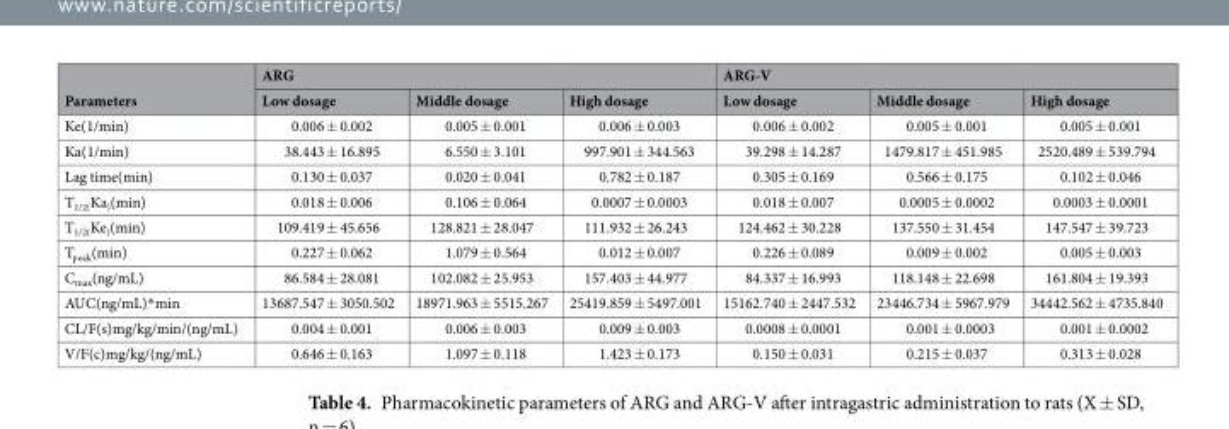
<table><thead><tr><td rowspan="2">Parameters</td><td colspan="3">ARG</td><td colspan="3">ARG-V</td></tr><tr><td>Low dosage</td><td>Middle dosage</td><td>High dosage</td><td>Low dosage</td><td>Middle dosage</td><td>High dosage</td></tr></thead><tbody><tr><td>Ke(1/min)</td><td>0.006 ± 0.002</td><td>0.005 ± 0.001</td><td>0.006 ± 0.003</td><td>0.006 ± 0.002</td><td>0.005 ± 0.001</td><td>0.005 ± 0.001</td></tr><tr><td>Ka(1/min)</td><td>38.443 ± 16.895</td><td>6.550 ± 3.101</td><td>997.901 ± 344.563</td><td>39.298 ± 14.287</td><td>1479.817 ± 451.985</td><td>2520.489 ± 539.794</td></tr><tr><td>Lag time(min)</td><td>0.130 ± 0.037</td><td>0.020 ± 0.041</td><td>0.782 ± 0.187</td><td>0.305 ± 0.169</td><td>0.566 ± 0.175</td><td>0.102 ± 0.046</td></tr><tr><td>T<sub>1/2(</sub>Ka<sub>)</sub>(min)</td><td>0.018 ± 0.006</td><td>0.106 ± 0.064</td><td>0.0007 ± 0.0003</td><td>0.018 ± 0.007</td><td>0.0005 ± 0.0002</td><td>0.0003 ± 0.0001</td></tr><tr><td>T<sub>1/2(</sub>Ke<sub>)</sub>(min)</td><td>109.419 ± 45.656</td><td>128.821 ± 28.047</td><td>111.932 ± 26.243</td><td>124.462 ± 30.228</td><td>137.550 ± 31.454</td><td>147.547 ± 39.723</td></tr><tr><td>T<sub>peak</sub>(min)</td><td>0.227 ± 0.062</td><td>1.079 ± 0.564</td><td>0.012 ± 0.007</td><td>0.226 ± 0.089</td><td>0.009 ± 0.002</td><td>0.005 ± 0.003</td></tr><tr><td>C<sub>max</sub>(ng/mL)</td><td>86.584 ± 28.081</td><td>102.082 ± 25.953</td><td>157.403 ± 44.977</td><td>84.337 ± 16.993</td><td>118.148 ± 22.698</td><td>161.804 ± 19.393</td></tr><tr><td>AUC(ng/mL)*min</td><td>13687.547 ± 3050.502</td><td>18971.963 ± 5515.267</td><td>25419.859 ± 5497.001</td><td>15162.740 ± 2447.532</td><td>23446.734 ± 5967.979</td><td>34442.562 ± 4735.840</td></tr><tr><td>CL/F(s)mg/kg/min/(ng/mL)</td><td>0.004 ± 0.001</td><td>0.006 ± 0.003</td><td>0.009 ± 0.003</td><td>0.0008 ± 0.0001</td><td>0.001 ± 0.0003</td><td>0.001 ± 0.0002</td></tr><tr><td>V/F(c)mg/kg/(ng/mL)</td><td>0.646 ± 0.163</td><td>1.097 ± 0.118</td><td>1.423 ± 0.173</td><td>0.150 ± 0.031</td><td>0.215 ± 0.037</td><td>0.313 ± 0.028</td></tr></tbody></table>